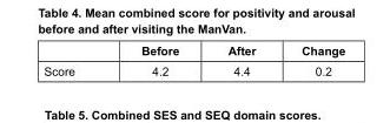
<table><thead><tr><td></td><td>Before</td><td>After</td><td>Change</td></tr></thead><tbody><tr><td>Score</td><td>4.2</td><td>4.4</td><td>0.2</td></tr></tbody></table>